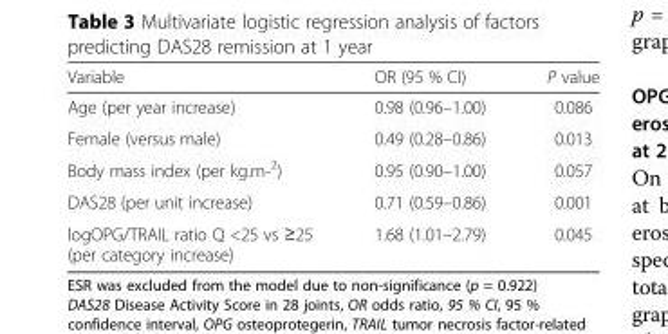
<table><thead><tr><td>Variable</td><td>OR (95 % CI)</td><td>P value</td></tr></thead><tbody><tr><td>Age (per year increase)</td><td>0.98 (0.96–1.00)</td><td>0.086</td></tr><tr><td>Female (versus male)</td><td>0.49 (0.28–0.86)</td><td>0.013</td></tr><tr><td>Body mass index (per kg.m-<sup>2</sup>)</td><td>0.95 (0.90–1.00)</td><td>0.057</td></tr><tr><td>DAS28 (per unit increase)</td><td>0.71 (0.59–0.86)</td><td>0.001</td></tr><tr><td>logOPG/TRAIL ratio Q &lt;25 vs ≥25 (per category increase)</td><td>1.68 (1.01–2.79)</td><td>0.045</td></tr></tbody></table>